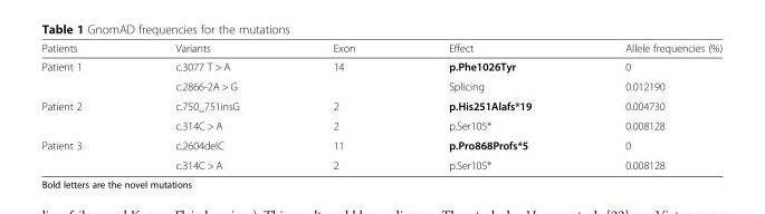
<table><thead><tr><td>Patients</td><td>Variants</td><td>Exon</td><td>Effect</td><td>Allele frequencies (%)</td></tr></thead><tbody><tr><td rowspan="2">Patient 1</td><td>c.3077 T &gt; A</td><td>14</td><td>p.Phe1026Tyr</td><td>0</td></tr><tr><td>c.2866-2A &gt; G</td><td></td><td>Splicing</td><td>0.012190</td></tr><tr><td rowspan="2">Patient 2</td><td>c.750_751insG</td><td>2</td><td>p.His251Alafs*19</td><td>0.004730</td></tr><tr><td>c.314C &gt; A</td><td>2</td><td>p.Ser105*</td><td>0.008128</td></tr><tr><td rowspan="2">Patient 3</td><td>c.2604delC</td><td>11</td><td>p.Pro868Profs*5</td><td>0</td></tr><tr><td>c.314C &gt; A</td><td>2</td><td>p.Ser105*</td><td>0.008128</td></tr></tbody></table>